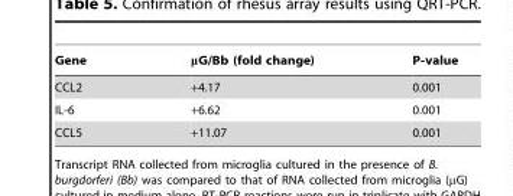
<table><thead><tr><td>Gene</td><td>μG/Bb (fold change)</td><td>P-value</td></tr></thead><tbody><tr><td>CCL2</td><td>+4.17</td><td>0.001</td></tr><tr><td>IL-6</td><td>+6.62</td><td>0.001</td></tr><tr><td>CCL5</td><td>+11.07</td><td>0.001</td></tr></tbody></table>